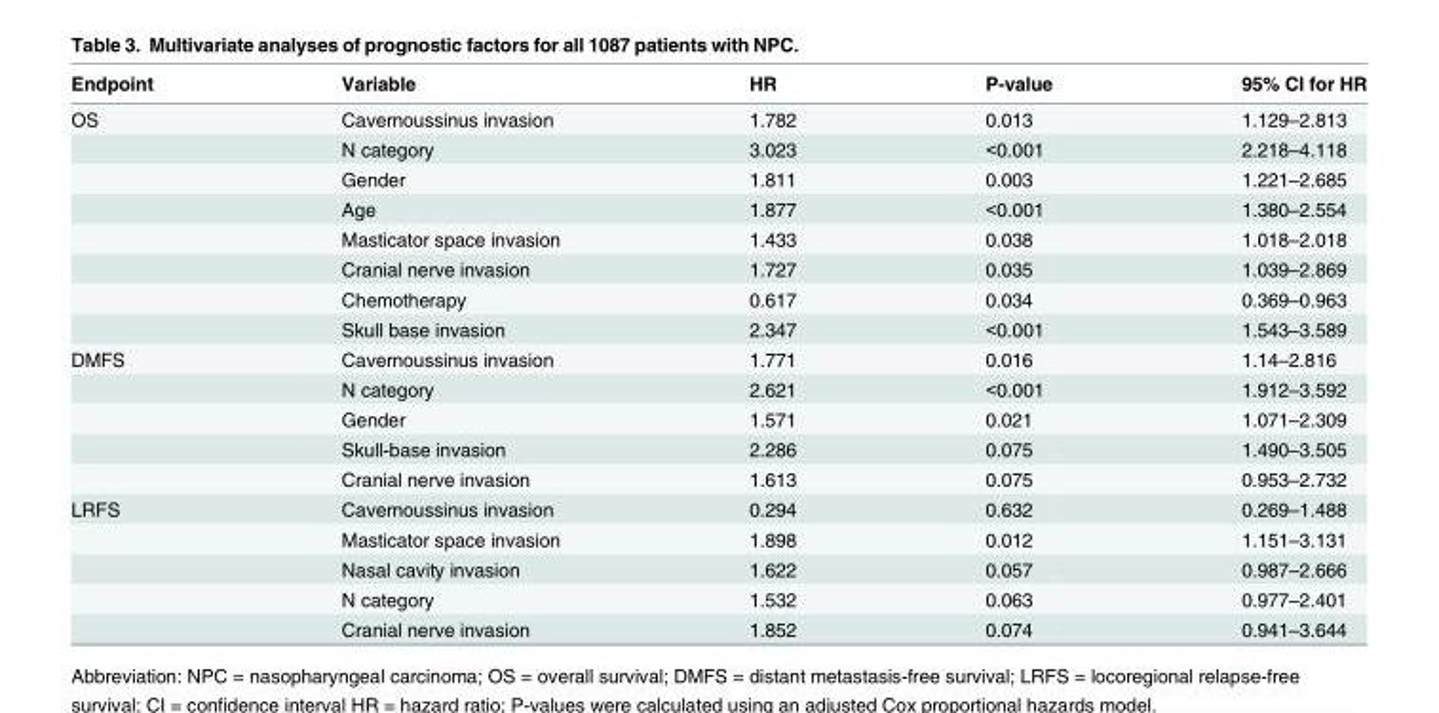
<table><thead><tr><td>Endpoint</td><td>Variable</td><td>HR</td><td>P-value</td><td>95% CI for HR</td></tr></thead><tbody><tr><td rowspan="8">OS</td><td>Cavernoussinus invasion</td><td>1.782</td><td>0.013</td><td>1.129–2.813</td></tr><tr><td>N category</td><td>3.023</td><td>&lt;0.001</td><td>2.218–4.118</td></tr><tr><td>Gender</td><td>1.811</td><td>0.003</td><td>1.221–2.685</td></tr><tr><td>Age</td><td>1.877</td><td>&lt;0.001</td><td>1.380–2.554</td></tr><tr><td>Masticator space invasion</td><td>1.433</td><td>0.038</td><td>1.018–2.018</td></tr><tr><td>Cranial nerve invasion</td><td>1.727</td><td>0.035</td><td>1.039–2.869</td></tr><tr><td>Chemotherapy</td><td>0.617</td><td>0.034</td><td>0.369–0.963</td></tr><tr><td>Skull base invasion</td><td>2.347</td><td>&lt;0.001</td><td>1.543–3.589</td></tr><tr><td rowspan="5">DMFS</td><td>Cavernoussinus invasion</td><td>1.771</td><td>0.016</td><td>1.14–2.816</td></tr><tr><td>N category</td><td>2.621</td><td>&lt;0.001</td><td>1.912–3.592</td></tr><tr><td>Gender</td><td>1.571</td><td>0.021</td><td>1.071–2.309</td></tr><tr><td>Skull-base invasion</td><td>2.286</td><td>0.075</td><td>1.490–3.505</td></tr><tr><td>Cranial nerve invasion</td><td>1.613</td><td>0.075</td><td>0.953–2.732</td></tr><tr><td rowspan="5">LRFS</td><td>Cavernoussinus invasion</td><td>0.294</td><td>0.632</td><td>0.269–1.488</td></tr><tr><td>Masticator space invasion</td><td>1.898</td><td>0.012</td><td>1.151–3.131</td></tr><tr><td>Nasal cavity invasion</td><td>1.622</td><td>0.057</td><td>0.987–2.666</td></tr><tr><td>N category</td><td>1.532</td><td>0.063</td><td>0.977–2.401</td></tr><tr><td>Cranial nerve invasion</td><td>1.852</td><td>0.074</td><td>0.941–3.644</td></tr></tbody></table>